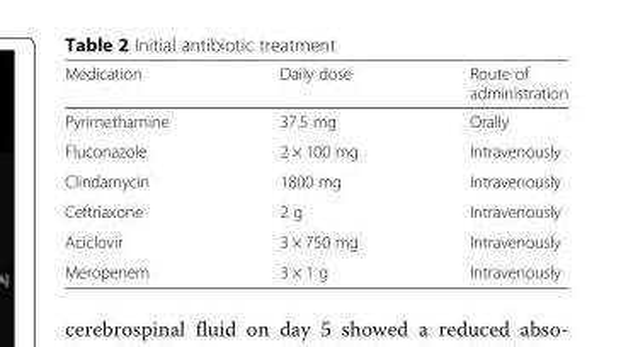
<table><thead><tr><td>Medication</td><td>Daily dose</td><td>Route of administration</td></tr></thead><tbody><tr><td>Pyrimethamine</td><td>37.5 mg</td><td>Orally</td></tr><tr><td>Fluconazole</td><td>2 × 100 mg</td><td>Intravenously</td></tr><tr><td>Clindamycin</td><td>1800 mg</td><td>Intravenously</td></tr><tr><td>Ceftriaxone</td><td>2 g</td><td>Intravenously</td></tr><tr><td>Aciclovir</td><td>3 × 750 mg</td><td>Intravenously</td></tr><tr><td>Meropenem</td><td>3 × 1 g</td><td>Intravenously</td></tr></tbody></table>